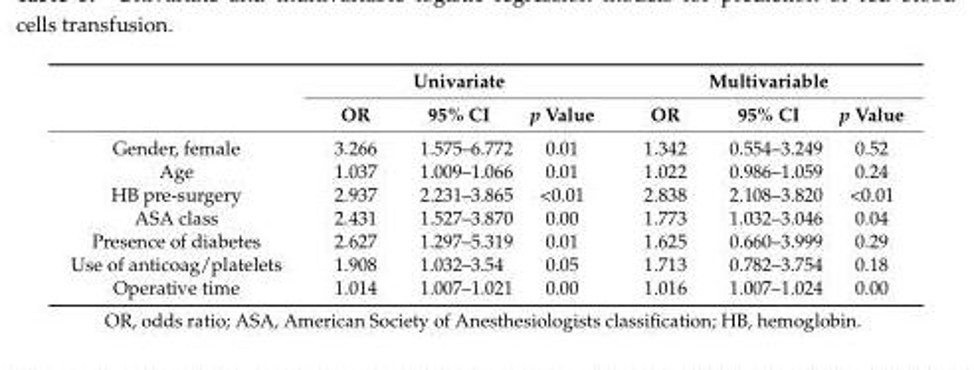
<table><thead><tr><td rowspan="2"></td><td colspan="3">Univariate</td><td colspan="3">Multivariable</td></tr><tr><td>OR</td><td>95% CI</td><td>p Value</td><td>OR</td><td>95% CI</td><td>p Value</td></tr></thead><tbody><tr><td>Gender, female</td><td>3.266</td><td>1.575–6.772</td><td>0.01</td><td>1.342</td><td>0.554–3.249</td><td>0.52</td></tr><tr><td>Age</td><td>1.037</td><td>1.009–1.066</td><td>0.01</td><td>1.022</td><td>0.986–1.059</td><td>0.24</td></tr><tr><td>HB pre-surgery</td><td>2.937</td><td>2.231–3.865</td><td>&lt;0.01</td><td>2.838</td><td>2.108–3.820</td><td>&lt;0.01</td></tr><tr><td>ASA class</td><td>2.431</td><td>1.527–3.870</td><td>0.00</td><td>1.773</td><td>1.032–3.046</td><td>0.04</td></tr><tr><td>Presence of diabetes</td><td>2.627</td><td>1.297–5.319</td><td>0.01</td><td>1.625</td><td>0.660–3.999</td><td>0.29</td></tr><tr><td>Use of anticoag/platelets</td><td>1.908</td><td>1.032–3.54</td><td>0.05</td><td>1.713</td><td>0.782–3.754</td><td>0.18</td></tr><tr><td>Operative time</td><td>1.014</td><td>1.007–1.021</td><td>0.00</td><td>1.016</td><td>1.007–1.024</td><td>0.00</td></tr></tbody></table>